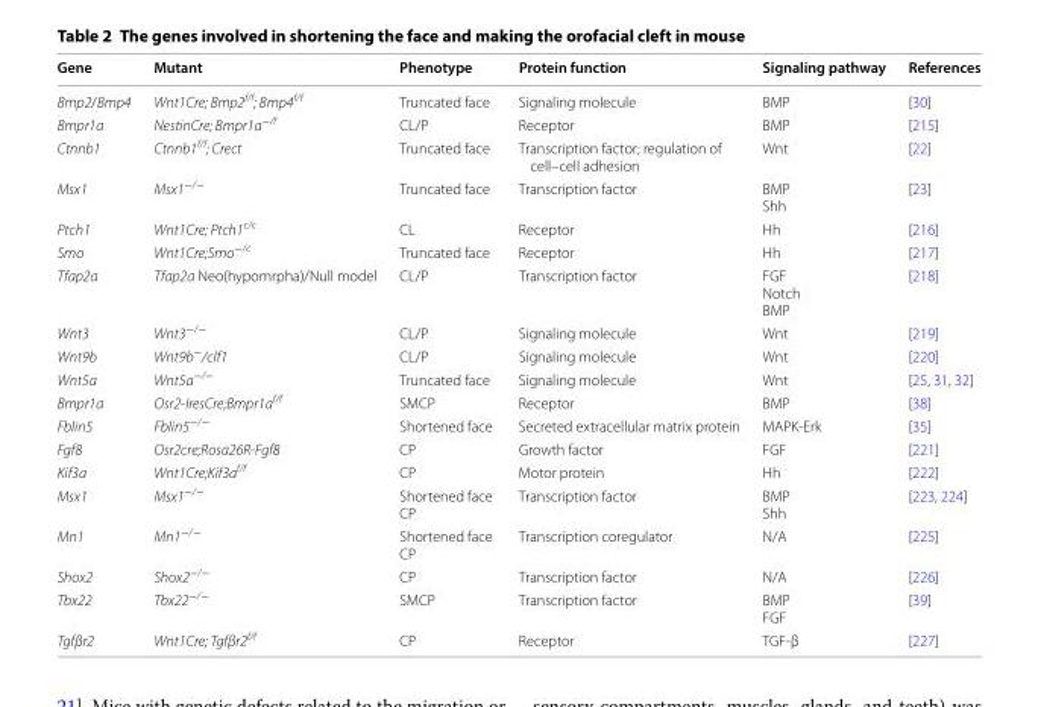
<table><thead><tr><td>Gene</td><td>Mutant</td><td>Phenotype</td><td>Protein function</td><td>Signaling pathway</td><td>References</td></tr></thead><tbody><tr><td>Bmp2/Bmp4</td><td>Wnt1Cre; Bmp2<sup>f/f</sup>; Bmp4<sup>f/f</sup></td><td>Truncated face</td><td>Signaling molecule</td><td>BMP</td><td>[30]</td></tr><tr><td>Bmpr1a</td><td>NestinCre; Bmpr1a<sup>−/f</sup></td><td>CL/P</td><td>Receptor</td><td>BMP</td><td>[215]</td></tr><tr><td>Ctnnb1</td><td>Ctnnb1<sup>f/f</sup>; Crect</td><td>Truncated face</td><td>Transcription factor; regulation of cell–cell adhesion</td><td>Wnt</td><td>[22]</td></tr><tr><td>Msx1</td><td>Msx1<sup>−/−</sup></td><td>Truncated face</td><td>Transcription factor</td><td>BMP Shh</td><td>[23]</td></tr><tr><td>Ptch1</td><td>Wnt1Cre; Ptch1<sup>c/c</sup></td><td>CL</td><td>Receptor</td><td>Hh</td><td>[216]</td></tr><tr><td>Smo</td><td>Wnt1Cre;Smo<sup>−/c</sup></td><td>Truncated face</td><td>Receptor</td><td>Hh</td><td>[217]</td></tr><tr><td>Tfap2a</td><td>Tfap2a Neo(hypomrpha)/Null model</td><td>CL/P</td><td>Transcription factor</td><td>FGF Notch BMP</td><td>[218]</td></tr><tr><td>Wnt3</td><td>Wnt3<sup>−/−</sup></td><td>CL/P</td><td>Signaling molecule</td><td>Wnt</td><td>[219]</td></tr><tr><td>Wnt9b</td><td>Wnt9b<sup>−</sup>/clf1</td><td>CL/P</td><td>Signaling molecule</td><td>Wnt</td><td>[220]</td></tr><tr><td>Wnt5a</td><td>Wnt5a<sup>−/−</sup></td><td>Truncated face</td><td>Signaling molecule</td><td>Wnt</td><td>[25, 31, 32]</td></tr><tr><td>Bmpr1a</td><td>Osr2-IresCre;Bmpr1a<sup>f/f</sup></td><td>SMCP</td><td>Receptor</td><td>BMP</td><td>[38]</td></tr><tr><td>Fblin5</td><td>Fblin5<sup>−/−</sup></td><td>Shortened face</td><td>Secreted extracellular matrix protein</td><td>MAPK-Erk</td><td>[35]</td></tr><tr><td>Fgf8</td><td>Osr2cre;Rosa26R-Fgf8</td><td>CP</td><td>Growth factor</td><td>FGF</td><td>[221]</td></tr><tr><td>Kif3a</td><td>Wnt1Cre;Kif3a<sup>f/f</sup></td><td>CP</td><td>Motor protein</td><td>Hh</td><td>[222]</td></tr><tr><td>Msx1</td><td>Msx1<sup>−/−</sup></td><td>Shortened face CP</td><td>Transcription factor</td><td>BMP Shh</td><td>[223, 224]</td></tr><tr><td>Mn1</td><td>Mn1<sup>−/−</sup></td><td>Shortened face CP</td><td>Transcription coregulator</td><td>N/A</td><td>[225]</td></tr><tr><td>Shox2</td><td>Shox2<sup>−/−</sup></td><td>CP</td><td>Transcription factor</td><td>N/A</td><td>[226]</td></tr><tr><td>Tbx22</td><td>Tbx22<sup>−/−</sup></td><td>SMCP</td><td>Transcription factor</td><td>BMP FGF</td><td>[39]</td></tr><tr><td>Tgfβr2</td><td>Wnt1Cre; Tgfβr2<sup>f/f</sup></td><td>CP</td><td>Receptor</td><td>TGF-β</td><td>[227]</td></tr></tbody></table>